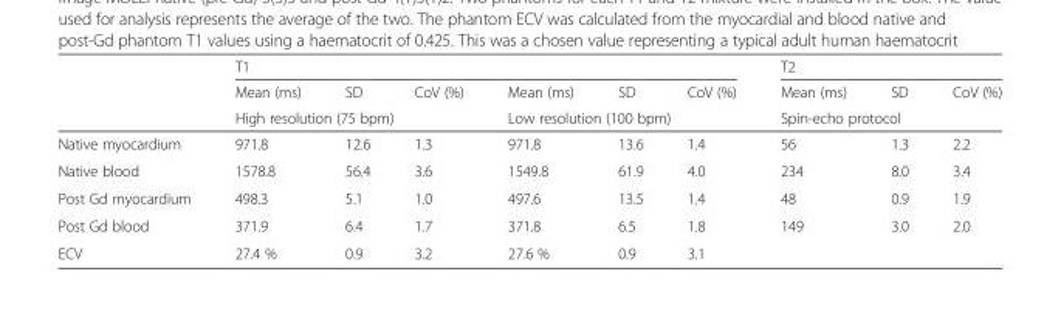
<table><thead><tr><td rowspan="3"></td><td colspan="6">T1</td><td colspan="3">T2</td></tr><tr><td>Mean (ms)</td><td>SD</td><td>CoV (%)</td><td>Mean (ms)</td><td>SD</td><td>CoV (%)</td><td>Mean (ms)</td><td>SD</td><td>CoV (%)</td></tr><tr><td colspan="3">High resolution (75 bpm)</td><td colspan="3">Low resolution (100 bpm)</td><td colspan="3">Spin-echo protocol</td></tr></thead><tbody><tr><td>Native myocardium</td><td>971.8</td><td>12.6</td><td>1.3</td><td>971.8</td><td>13.6</td><td>1.4</td><td>56</td><td>1.3</td><td>2.2</td></tr><tr><td>Native blood</td><td>1578.8</td><td>56.4</td><td>3.6</td><td>1549.8</td><td>61.9</td><td>4.0</td><td>234</td><td>8.0</td><td>3.4</td></tr><tr><td>Post Gd myocardium</td><td>498.3</td><td>5.1</td><td>1.0</td><td>497.6</td><td>13.5</td><td>1.4</td><td>48</td><td>0.9</td><td>1.9</td></tr><tr><td>Post Gd blood</td><td>371.9</td><td>6.4</td><td>1.7</td><td>371.8</td><td>6.5</td><td>1.8</td><td>149</td><td>3.0</td><td>2.0</td></tr><tr><td>ECV</td><td>27.4 %</td><td>0.9</td><td>3.2</td><td>27.6 %</td><td>0.9</td><td>3.1</td><td></td><td></td><td></td></tr></tbody></table>